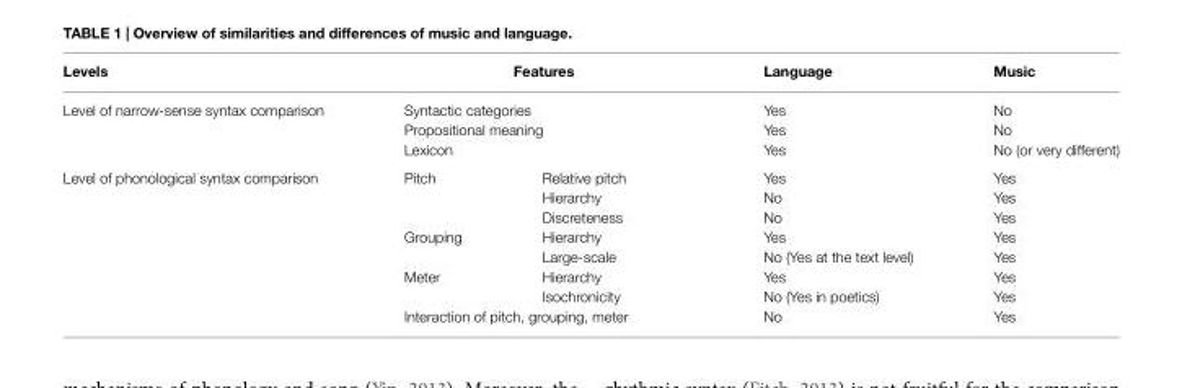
<table><thead><tr><td>Levels</td><td>Features</td><td>Language</td><td>Music</td></tr></thead><tbody><tr><td rowspan="3">Level of narrow-sense syntax comparison</td><td>Syntactic categories</td><td>Yes</td><td>No</td></tr><tr><td>Propositional meaning</td><td>Yes</td><td>No</td></tr><tr><td>Lexicon</td><td>Yes</td><td>No (or very different)</td></tr><tr><td rowspan="8">Level of phonological syntax comparison</td><td>Pitch Relative pitch</td><td>Yes</td><td>Yes</td></tr><tr><td>Hierarchy</td><td>No</td><td>Yes</td></tr><tr><td>Discreteness</td><td>No</td><td>Yes</td></tr><tr><td>Grouping Hierarchy</td><td>Yes</td><td>Yes</td></tr><tr><td>Large-scale</td><td>No (Yes at the text level)</td><td>Yes</td></tr><tr><td>Meter Hierarchy</td><td>Yes</td><td>Yes</td></tr><tr><td>Isochronicity</td><td>No (Yes in poetics)</td><td>Yes</td></tr><tr><td>Interaction of pitch, grouping, meter</td><td>No</td><td>Yes</td></tr></tbody></table>